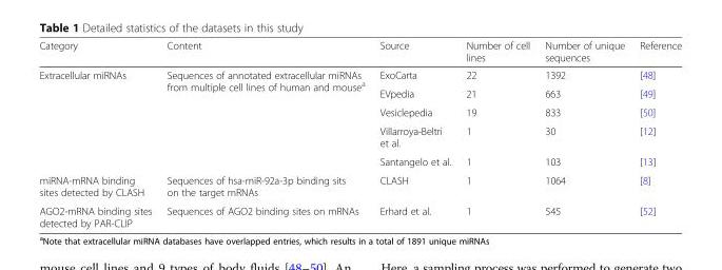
<table><thead><tr><td>Category</td><td>Content</td><td>Source</td><td>Number of cell lines</td><td>Number of unique sequences</td><td>Reference</td></tr></thead><tbody><tr><td rowspan="5">Extracellular miRNAs</td><td rowspan="5">Sequences of annotated extracellular miRNAs from multiple cell lines of human and mouse<sup>a</sup></td><td>ExoCarta</td><td>22</td><td>1392</td><td>[48]</td></tr><tr><td>EVpedia</td><td>21</td><td>663</td><td>[49]</td></tr><tr><td>Vesiclepedia</td><td>19</td><td>833</td><td>[50]</td></tr><tr><td>Villarroya-Beltri et al.</td><td>1</td><td>30</td><td>[12]</td></tr><tr><td>Santangelo et al.</td><td>1</td><td>103</td><td>[13]</td></tr><tr><td>miRNA-mRNA binding sites detected by CLASH</td><td>Sequences of hsa-miR-92a-3p binding sits on the target mRNAs</td><td>CLASH</td><td>1</td><td>1064</td><td>[8]</td></tr><tr><td>AGO2-mRNA binding sites detected by PAR-CLIP</td><td>Sequences of AGO2 binding sites on mRNAs</td><td>Erhard et al.</td><td>1</td><td>545</td><td>[52]</td></tr></tbody></table>